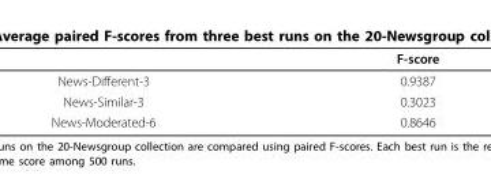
<table><thead><tr><td></td><td>F-score</td></tr></thead><tbody><tr><td>News-Different-3</td><td>0.9387</td></tr><tr><td>News-Similar-3</td><td>0.3023</td></tr><tr><td>News-Moderated-6</td><td>0.8646</td></tr></tbody></table>